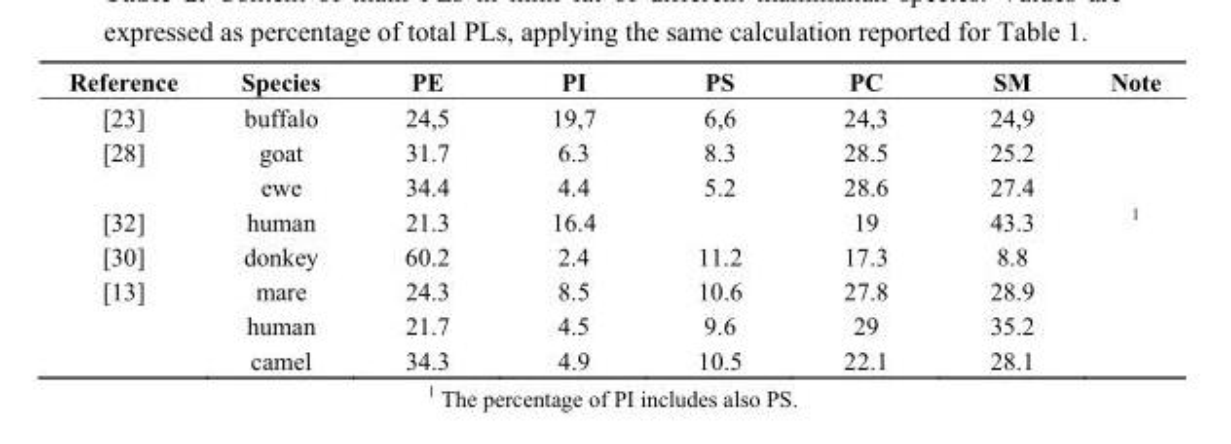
<table><thead><tr><td>Reference</td><td>Species</td><td>PE</td><td>PI</td><td>PS</td><td>PC</td><td>SM</td><td>Note</td></tr></thead><tbody><tr><td>[23]</td><td>buffalo</td><td>24,5</td><td>19,7</td><td>6,6</td><td>24,3</td><td>24,9</td><td></td></tr><tr><td rowspan="2">[28]</td><td>goat</td><td>31.7</td><td>6.3</td><td>8.3</td><td>28.5</td><td>25.2</td><td></td></tr><tr><td>ewe</td><td>34.4</td><td>4.4</td><td>5.2</td><td>28.6</td><td>27.4</td><td></td></tr><tr><td>[32]</td><td>human</td><td>21.3</td><td>16.4</td><td></td><td>19</td><td>43.3</td><td>1</td></tr><tr><td>[30]</td><td>donkey</td><td>60.2</td><td>2.4</td><td>11.2</td><td>17.3</td><td>8.8</td><td></td></tr><tr><td rowspan="3">[13]</td><td>mare</td><td>24.3</td><td>8.5</td><td>10.6</td><td>27.8</td><td>28.9</td><td></td></tr><tr><td>human</td><td>21.7</td><td>4.5</td><td>9.6</td><td>29</td><td>35.2</td><td></td></tr><tr><td>camel</td><td>34.3</td><td>4.9</td><td>10.5</td><td>22.1</td><td>28.1</td><td></td></tr></tbody></table>